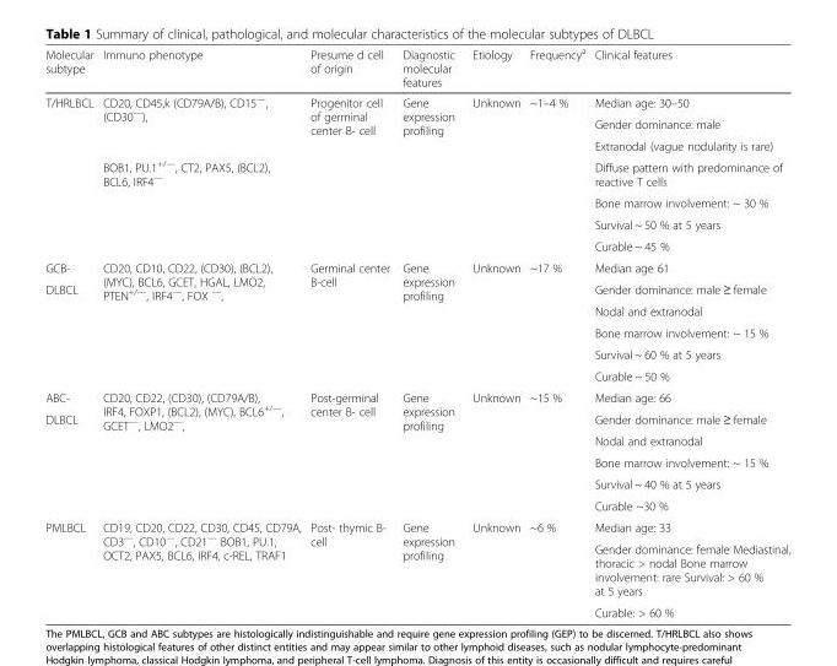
<table><thead><tr><td>Molecular subtype</td><td>Immuno phenotype</td><td>Presume d cell of origin</td><td>Diagnostic molecular features</td><td>Etiology</td><td>Frequency<sup>a</sup></td><td>Clinical features</td></tr></thead><tbody><tr><td rowspan="7">T/HRLBCL</td><td rowspan="3">CD20, CD45,k (CD79A/B), CD15<sup>—</sup>, (CD30<sup>—</sup>),</td><td rowspan="7">Progenitor cell of germinal center B- cell</td><td rowspan="7">Gene expression profiling</td><td rowspan="7">Unknown</td><td rowspan="7">~1–4 %</td><td>Median age: 30–50</td></tr><tr><td>Gender dominance: male</td></tr><tr><td>Extranodal (vague nodularity is rare)</td></tr><tr><td rowspan="4">BOB1, PU.1<sup>+/—</sup>, CT2, PAX5, (BCL2), BCL6, IRF4<sup>—</sup></td><td>Diffuse pattern with predominance of reactive T cells</td></tr><tr><td>Bone marrow involvement: ~ 30 %</td></tr><tr><td>Survival ~ 50 % at 5 years</td></tr><tr><td>Curable ~ 45 %</td></tr><tr><td>GCB-</td><td rowspan="6">CD20, CD10, CD22, (CD30), (BCL2), (MYC), BCL6, GCET, HGAL, LMO2, PTEN<sup>+/—</sup>, IRF4<sup>—</sup>, FOX <sup>—</sup>,</td><td rowspan="6">Germinal center B-cell</td><td rowspan="6">Gene expression profiling</td><td rowspan="6">Unknown</td><td rowspan="6">~17 %</td><td>Median age 61</td></tr><tr><td rowspan="5">DLBCL</td><td>Gender dominance: male ≥ female</td></tr><tr><td>Nodal and extranodal</td></tr><tr><td>Bone marrow involvement: ~ 15 %</td></tr><tr><td>Survival ~ 60 % at 5 years</td></tr><tr><td>Curable ~ 50 %</td></tr><tr><td>ABC-</td><td rowspan="6">CD20, CD22, (CD30), (CD79A/B), IRF4, FOXP1, (BCL2), (MYC), BCL6<sup>+/—</sup>, GCET<sup>—</sup>, LMO2<sup>—</sup>,</td><td rowspan="6">Post-germinal center B- cell</td><td rowspan="6">Gene expression profiling</td><td rowspan="6">Unknown</td><td rowspan="6">~15 %</td><td>Median age: 66</td></tr><tr><td rowspan="5">DLBCL</td><td>Gender dominance: male ≥ female</td></tr><tr><td>Nodal and extranodal</td></tr><tr><td>Bone marrow involvement: ~ 15 %</td></tr><tr><td>Survival ~ 40 % at 5 years</td></tr><tr><td>Curable ~30 %</td></tr><tr><td rowspan="3">PMLBCL</td><td rowspan="3">CD19, CD20, CD22, CD30, CD45, CD79A, CD3<sup>—</sup>, CD10<sup>—</sup>, CD21<sup>—</sup> BOB1, PU.1, OCT2, PAX5, BCL6, IRF4, c-REL, TRAF1</td><td rowspan="3">Post- thymic B- cell</td><td rowspan="3">Gene expression profiling</td><td rowspan="3">Unknown</td><td rowspan="3">~6 %</td><td>Median age: 33</td></tr><tr><td>Gender dominance: female Mediastinal, thoracic &gt; nodal Bone marrow involvement: rare Survival: &gt; 60 % at 5 years</td></tr><tr><td>Curable: &gt; 60 %</td></tr></tbody></table>